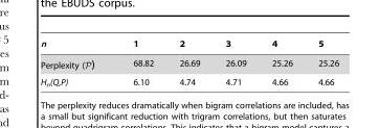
<table><thead><tr><td>n</td><td>1</td><td>2</td><td>3</td><td>4</td><td>5</td></tr></thead><tbody><tr><td>Perplexity (P)</td><td>68.82</td><td>26.69</td><td>26.09</td><td>25.26</td><td>25.26</td></tr><tr><td>H<sub>n</sub>(Q,P)</td><td>6.10</td><td>4.74</td><td>4.71</td><td>4.66</td><td>4.66</td></tr></tbody></table>